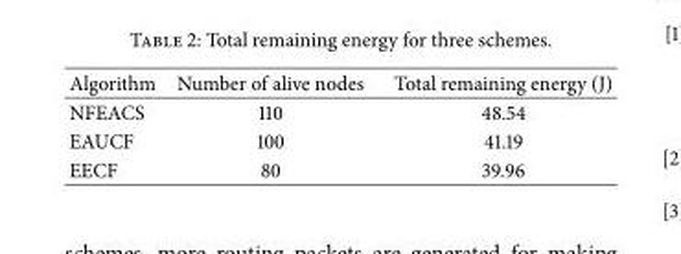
<table><thead><tr><td>Algorithm</td><td>Number of alive nodes</td><td>Total remaining energy (J)</td></tr></thead><tbody><tr><td>NFEACS</td><td>110</td><td>48.54</td></tr><tr><td>EAUCF</td><td>100</td><td>41.19</td></tr><tr><td>EECF</td><td>80</td><td>39.96</td></tr></tbody></table>